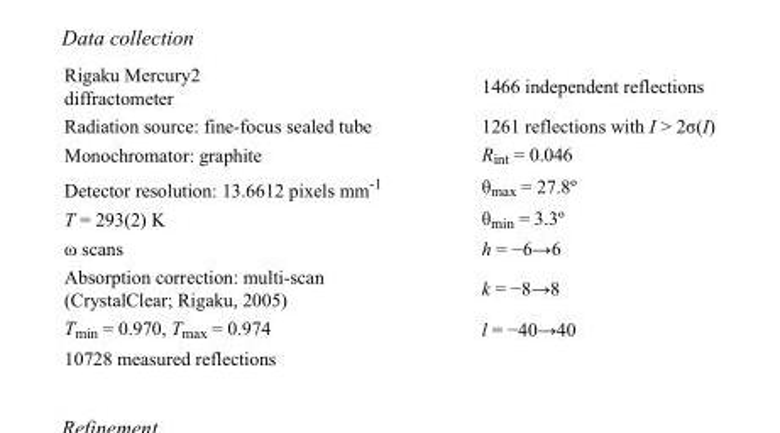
<table><tbody><tr><td>Rigaku Mercury2 diffractometer</td><td>1466 independent reflections</td></tr><tr><td>Radiation source: fine-focus sealed tube</td><td>1261 reflections with I &gt; 2σ(I)</td></tr><tr><td>Monochromator: graphite</td><td>R<sub>int</sub> = 0.046</td></tr><tr><td>Detector resolution: 13.6612 pixels mm<sup>-1</sup></td><td>θ<sub>max</sub> = 27.8º</td></tr><tr><td>T = 293(2) K</td><td>θ<sub>min</sub> = 3.3º</td></tr><tr><td>ω scans</td><td>h = −6→6</td></tr><tr><td>Absorption correction: multi-scan (CrystalClear; Rigaku, 2005)</td><td>k = −8→8</td></tr><tr><td>T<sub>min</sub> = 0.970, T<sub>max</sub> = 0.974</td><td>l = −40→40</td></tr><tr><td>10728 measured reflections</td><td></td></tr></tbody></table>